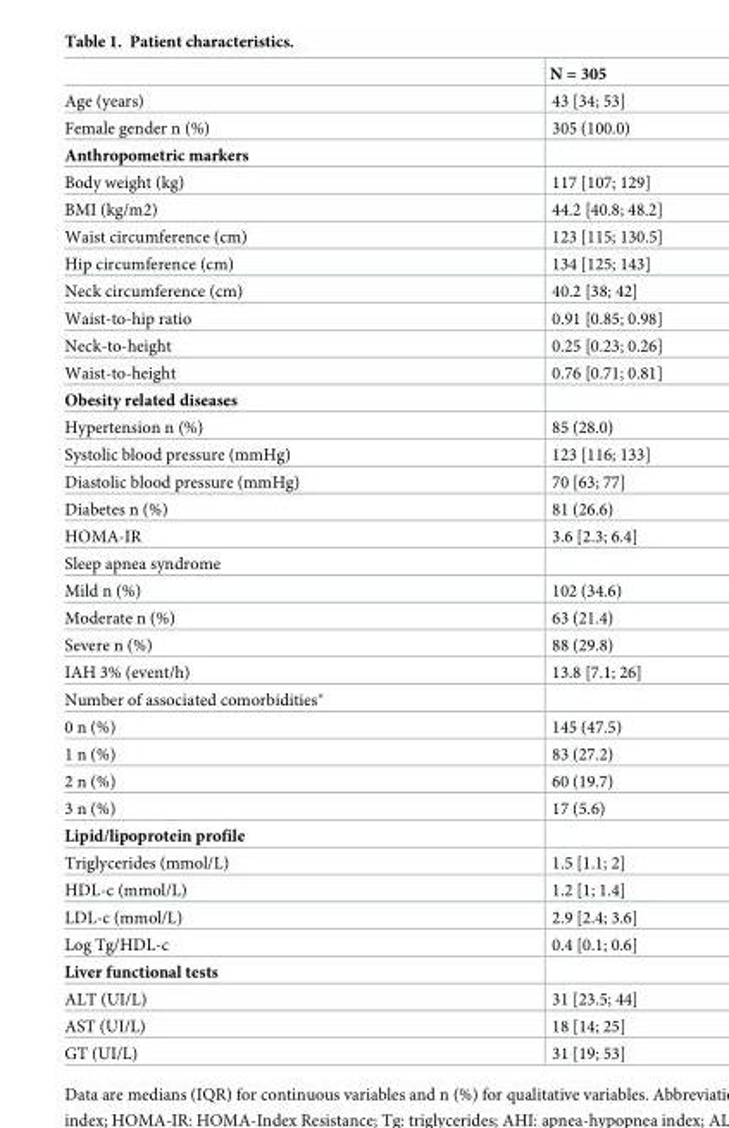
<table><thead><tr><td></td><td>N = 305</td></tr></thead><tbody><tr><td>Age (years)</td><td>43 [34; 53]</td></tr><tr><td>Female gender n (%)</td><td>305 (100.0)</td></tr><tr><td colspan="2">Anthropometric markers</td></tr><tr><td>Body weight (kg)</td><td>117 [107; 129]</td></tr><tr><td>BMI (kg/m2)</td><td>44.2 [40.8; 48.2]</td></tr><tr><td>Waist circumference (cm)</td><td>123 [115; 130.5]</td></tr><tr><td>Hip circumference (cm)</td><td>134 [125; 143]</td></tr><tr><td>Neck circumference (cm)</td><td>40.2 [38; 42]</td></tr><tr><td>Waist-to-hip ratio</td><td>0.91 [0.85; 0.98]</td></tr><tr><td>Neck-to-height</td><td>0.25 [0.23; 0.26]</td></tr><tr><td>Waist-to-height</td><td>0.76 [0.71; 0.81]</td></tr><tr><td colspan="2">Obesity related diseases</td></tr><tr><td>Hypertension n (%)</td><td>85 (28.0)</td></tr><tr><td>Systolic blood pressure (mmHg)</td><td>123 [116; 133]</td></tr><tr><td>Diastolic blood pressure (mmHg)</td><td>70 [63; 77]</td></tr><tr><td>Diabetes n (%)</td><td>81 (26.6)</td></tr><tr><td>HOMA-IR</td><td>3.6 [2.3; 6.4]</td></tr><tr><td colspan="2">Sleep apnea syndrome</td></tr><tr><td>Mild n (%)</td><td>102 (34.6)</td></tr><tr><td>Moderate n (%)</td><td>63 (21.4)</td></tr><tr><td>Severe n (%)</td><td>88 (29.8)</td></tr><tr><td>IAH 3% (event/h)</td><td>13.8 [7.1; 26]</td></tr><tr><td colspan="2">Number of associated comorbidities*</td></tr><tr><td>0 n (%)</td><td>145 (47.5)</td></tr><tr><td>1 n (%)</td><td>83 (27.2)</td></tr><tr><td>2 n (%)</td><td>60 (19.7)</td></tr><tr><td>3 n (%)</td><td>17 (5.6)</td></tr><tr><td colspan="2">Lipid/lipoprotein profile</td></tr><tr><td>Triglycerides (mmol/L)</td><td>1.5 [1.1; 2]</td></tr><tr><td>HDL-c (mmol/L)</td><td>1.2 [1; 1.4]</td></tr><tr><td>LDL-c (mmol/L)</td><td>2.9 [2.4; 3.6]</td></tr><tr><td>Log Tg/HDL-c</td><td>0.4 [0.1; 0.6]</td></tr><tr><td colspan="2">Liver functional tests</td></tr><tr><td>ALT (UI/L)</td><td>31 [23.5; 44]</td></tr><tr><td>AST (UI/L)</td><td>18 [14; 25]</td></tr><tr><td>GT (UI/L)</td><td>31 [19; 53]</td></tr></tbody></table>